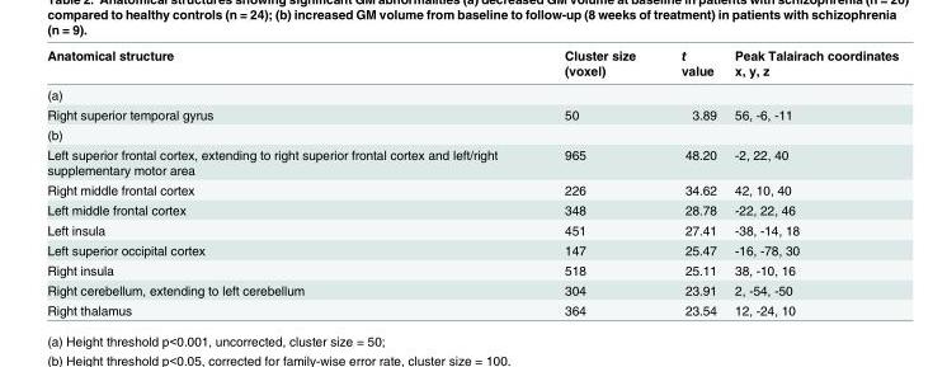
<table><thead><tr><td>Anatomical structure</td><td>Cluster size (voxel)</td><td>t value</td><td>Peak Talairach coordinates x, y, z</td></tr></thead><tbody><tr><td colspan="4">(a)</td></tr><tr><td>Right superior temporal gyrus</td><td>50</td><td>3.89</td><td>56, -6, -11</td></tr><tr><td colspan="4">(b)</td></tr><tr><td>Left superior frontal cortex, extending to right superior frontal cortex and left/right supplementary motor area</td><td>965</td><td>48.20</td><td>-2, 22, 40</td></tr><tr><td>Right middle frontal cortex</td><td>226</td><td>34.62</td><td>42, 10, 40</td></tr><tr><td>Left middle frontal cortex</td><td>348</td><td>28.78</td><td>-22, 22, 46</td></tr><tr><td>Left insula</td><td>451</td><td>27.41</td><td>-38, -14, 18</td></tr><tr><td>Left superior occipital cortex</td><td>147</td><td>25.47</td><td>-16, -78, 30</td></tr><tr><td>Right insula</td><td>518</td><td>25.11</td><td>38, -10, 16</td></tr><tr><td>Right cerebellum, extending to left cerebellum</td><td>304</td><td>23.91</td><td>2, -54, -50</td></tr><tr><td>Right thalamus</td><td>364</td><td>23.54</td><td>12, -24, 10</td></tr></tbody></table>